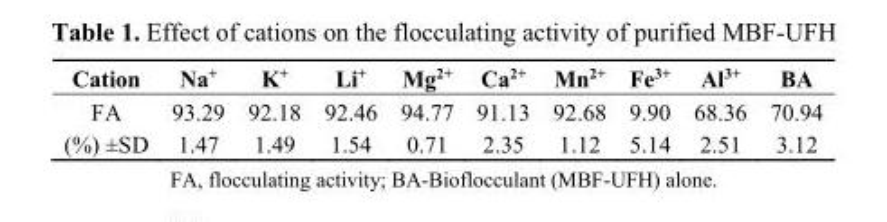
<table><thead><tr><td>Cation</td><td>Na<sup>+</sup></td><td>K<sup>+</sup></td><td>Li<sup>+</sup></td><td>Mg<sup>2+</sup></td><td>Ca<sup>2+</sup></td><td>Mn<sup>2+</sup></td><td>Fe<sup>3+</sup></td><td>Al<sup>3+</sup></td><td>BA</td></tr></thead><tbody><tr><td>FA</td><td>93.29</td><td>92.18</td><td>92.46</td><td>94.77</td><td>91.13</td><td>92.68</td><td>9.90</td><td>68.36</td><td>70.94</td></tr><tr><td>(%) ±SD</td><td>1.47</td><td>1.49</td><td>1.54</td><td>0.71</td><td>2.35</td><td>1.12</td><td>5.14</td><td>2.51</td><td>3.12</td></tr></tbody></table>